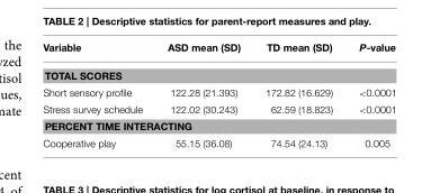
<table><thead><tr><td>Variable</td><td>ASD mean (SD)</td><td>TD mean (SD)</td><td>P-value</td></tr></thead><tbody><tr><td colspan="4">TOTAL SCORES</td></tr><tr><td>Short sensory profile</td><td>122.28 (21.393)</td><td>172.82 (16.629)</td><td>&lt;0.0001</td></tr><tr><td>Stress survey schedule</td><td>122.02 (30.243)</td><td>62.59 (18.823)</td><td>&lt;0.0001</td></tr><tr><td colspan="4">PERCENT TIME INTERACTING</td></tr><tr><td>Cooperative play</td><td>55.15 (36.08)</td><td>74.54 (24.13)</td><td>0.005</td></tr></tbody></table>